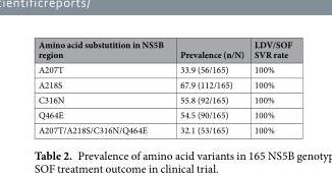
<table><thead><tr><td>Amino acid substutition in NS5B region</td><td>Prevalence (n/N)</td><td>LDV/SOF SVR rate</td></tr></thead><tbody><tr><td>A207T</td><td>33.9 (56/165)</td><td>100%</td></tr><tr><td>A218S</td><td>67.9 (112/165)</td><td>100%</td></tr><tr><td>C316N</td><td>55.8 (92/165)</td><td>100%</td></tr><tr><td>Q464E</td><td>54.5 (90/165)</td><td>100%</td></tr><tr><td>A207T/A218S/C316N/Q464E</td><td>32.1 (53/165)</td><td>100%</td></tr></tbody></table>